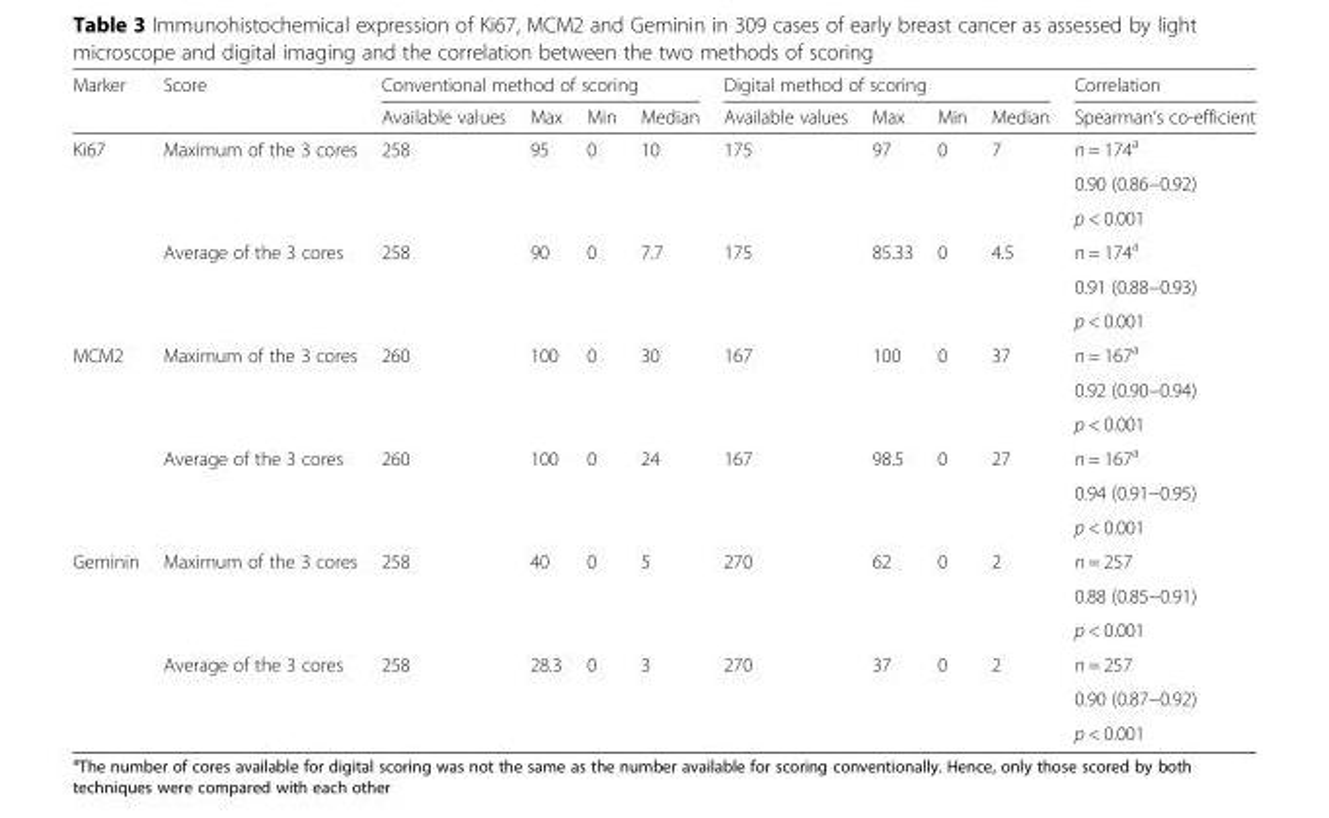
<table><thead><tr><td rowspan="2">Marker</td><td rowspan="2">Score</td><td colspan="4">Conventional method of scoring</td><td colspan="4">Digital method of scoring</td><td rowspan="2">Correlation Spearman’s co-efficient</td></tr><tr><td>Available values</td><td>Max</td><td>Min</td><td>Median</td><td>Available values</td><td>Max</td><td>Min</td><td>Median</td></tr></thead><tbody><tr><td rowspan="6">Ki67</td><td rowspan="3">Maximum of the 3 cores</td><td rowspan="3">258</td><td rowspan="3">95</td><td rowspan="3">0</td><td rowspan="3">10</td><td rowspan="3">175</td><td rowspan="3">97</td><td rowspan="3">0</td><td rowspan="3">7</td><td>n = 174<sup>a</sup></td></tr><tr><td>0.90 (0.86−0.92)</td></tr><tr><td>p &lt; 0.001</td></tr><tr><td rowspan="3">Average of the 3 cores</td><td rowspan="3">258</td><td rowspan="3">90</td><td rowspan="3">0</td><td rowspan="3">7.7</td><td rowspan="3">175</td><td rowspan="3">85.33</td><td rowspan="3">0</td><td rowspan="3">4.5</td><td>n = 174<sup>a</sup></td></tr><tr><td>0.91 (0.88−0.93)</td></tr><tr><td>p &lt; 0.001</td></tr><tr><td rowspan="6">MCM2</td><td rowspan="3">Maximum of the 3 cores</td><td rowspan="3">260</td><td rowspan="3">100</td><td rowspan="3">0</td><td rowspan="3">30</td><td rowspan="3">167</td><td rowspan="3">100</td><td rowspan="3">0</td><td rowspan="3">37</td><td>n = 167<sup>a</sup></td></tr><tr><td>0.92 (0.90−0.94)</td></tr><tr><td>p &lt; 0.001</td></tr><tr><td rowspan="3">Average of the 3 cores</td><td rowspan="3">260</td><td rowspan="3">100</td><td rowspan="3">0</td><td rowspan="3">24</td><td rowspan="3">167</td><td rowspan="3">98.5</td><td rowspan="3">0</td><td rowspan="3">27</td><td>n = 167<sup>a</sup></td></tr><tr><td>0.94 (0.91−0.95)</td></tr><tr><td>p &lt; 0.001</td></tr><tr><td rowspan="6">Geminin</td><td rowspan="3">Maximum of the 3 cores</td><td rowspan="3">258</td><td rowspan="3">40</td><td rowspan="3">0</td><td rowspan="3">5</td><td rowspan="3">270</td><td rowspan="3">62</td><td rowspan="3">0</td><td rowspan="3">2</td><td>n = 257</td></tr><tr><td>0.88 (0.85−0.91)</td></tr><tr><td>p &lt; 0.001</td></tr><tr><td rowspan="3">Average of the 3 cores</td><td rowspan="3">258</td><td rowspan="3">28.3</td><td rowspan="3">0</td><td rowspan="3">3</td><td rowspan="3">270</td><td rowspan="3">37</td><td rowspan="3">0</td><td rowspan="3">2</td><td>n = 257</td></tr><tr><td>0.90 (0.87−0.92)</td></tr><tr><td>p &lt; 0.001</td></tr></tbody></table>